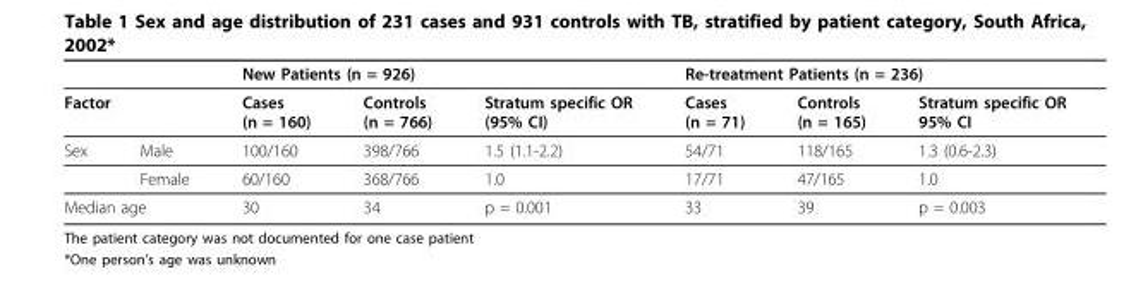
<table><thead><tr><td></td><td></td><td colspan="3">New Patients (n = 926)</td><td colspan="3">Re-treatment Patients (n = 236)</td></tr><tr><td colspan="2">Factor</td><td>Cases (n = 160)</td><td>Controls (n = 766)</td><td>Stratum specific OR (95% CI)</td><td>Cases (n = 71)</td><td>Controls (n = 165)</td><td>Stratum specific OR 95% CI</td></tr></thead><tbody><tr><td rowspan="2">Sex</td><td>Male</td><td>100/160</td><td>398/766</td><td>1.5 (1.1-2.2)</td><td>54/71</td><td>118/165</td><td>1.3 (0.6-2.3)</td></tr><tr><td>Female</td><td>60/160</td><td>368/766</td><td>1.0</td><td>17/71</td><td>47/165</td><td>1.0</td></tr><tr><td colspan="2">Median age</td><td>30</td><td>34</td><td>p = 0.001</td><td>33</td><td>39</td><td>p = 0.003</td></tr></tbody></table>